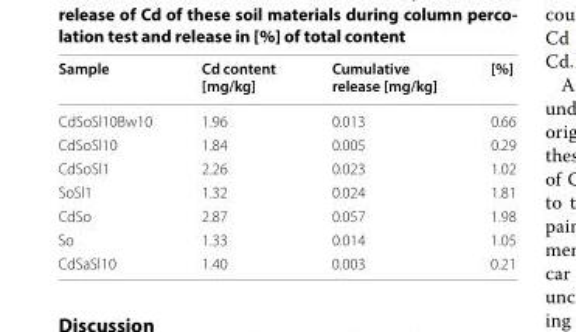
<table><thead><tr><td>Sample</td><td>Cd content [mg/kg]</td><td>Cumulative release [mg/kg]</td><td>[%]</td></tr></thead><tbody><tr><td>CdSoSl10Bw10</td><td>1.96</td><td>0.013</td><td>0.66</td></tr><tr><td>CdSoSl10</td><td>1.84</td><td>0.005</td><td>0.29</td></tr><tr><td>CdSoSl1</td><td>2.26</td><td>0.023</td><td>1.02</td></tr><tr><td>SoSl1</td><td>1.32</td><td>0.024</td><td>1.81</td></tr><tr><td>CdSo</td><td>2.87</td><td>0.057</td><td>1.98</td></tr><tr><td>So</td><td>1.33</td><td>0.014</td><td>1.05</td></tr><tr><td>CdSaSl10</td><td>1.40</td><td>0.003</td><td>0.21</td></tr></tbody></table>